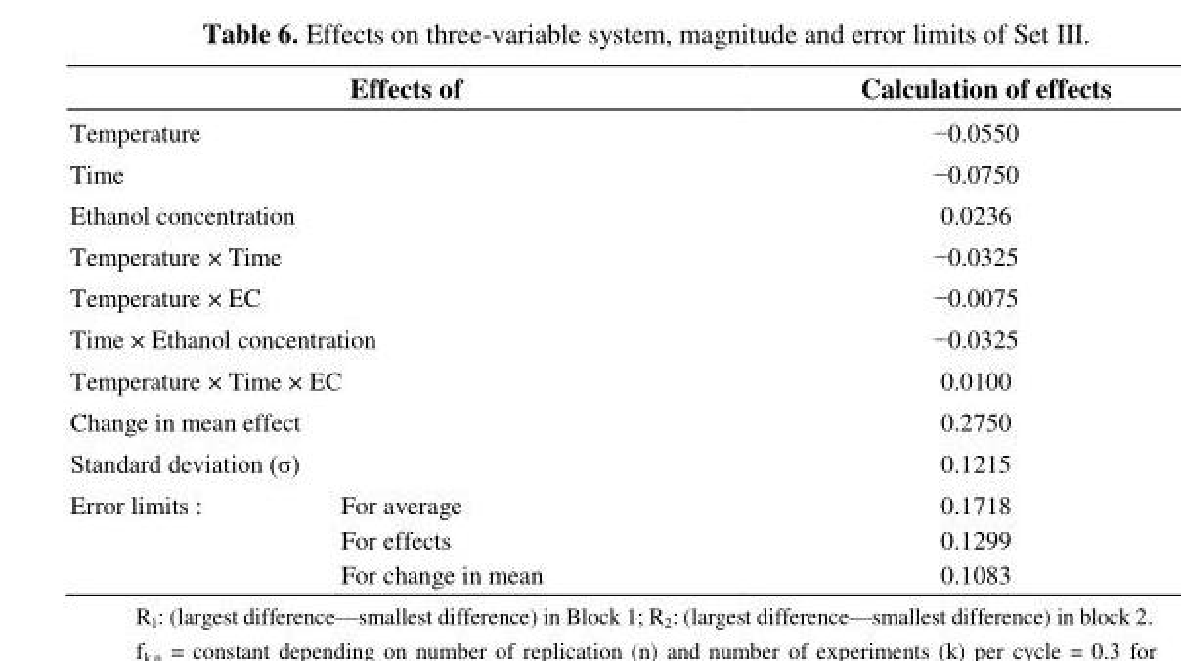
<table><thead><tr><td colspan="2">Effects of</td><td>Calculation of effects</td></tr></thead><tbody><tr><td colspan="2">Temperature</td><td>−0.0550</td></tr><tr><td colspan="2">Time</td><td>−0.0750</td></tr><tr><td colspan="2">Ethanol concentration</td><td>0.0236</td></tr><tr><td colspan="2">Temperature × Time</td><td>−0.0325</td></tr><tr><td colspan="2">Temperature × EC</td><td>−0.0075</td></tr><tr><td colspan="2">Time × Ethanol concentration</td><td>−0.0325</td></tr><tr><td colspan="2">Temperature × Time × EC</td><td>0.0100</td></tr><tr><td colspan="2">Change in mean effect</td><td>0.2750</td></tr><tr><td colspan="2">Standard deviation (σ)</td><td>0.1215</td></tr><tr><td rowspan="3">Error limits :</td><td>For average</td><td>0.1718</td></tr><tr><td>For effects</td><td>0.1299</td></tr><tr><td>For change in mean</td><td>0.1083</td></tr></tbody></table>